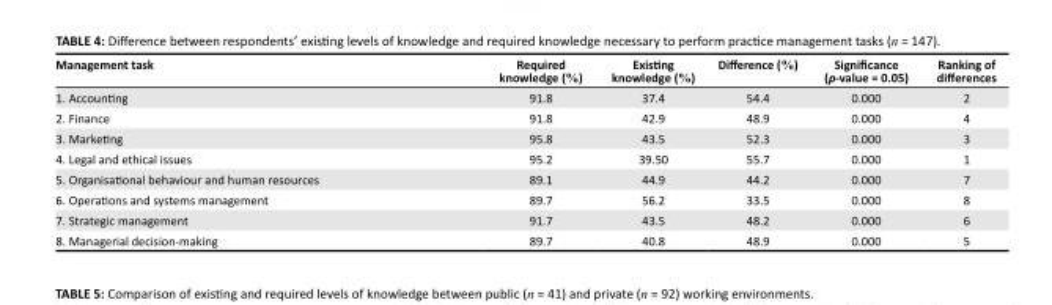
<table><thead><tr><td>Management task</td><td>Required knowledge (%)</td><td>Existing knowledge (%)</td><td>Difference (%)</td><td>Significance (p-value = 0.05)</td><td>Ranking of differences</td></tr></thead><tbody><tr><td>1. Accounting</td><td>91.8</td><td>37.4</td><td>54.4</td><td>0.000</td><td>2</td></tr><tr><td>2. Finance</td><td>91.8</td><td>42.9</td><td>48.9</td><td>0.000</td><td>4</td></tr><tr><td>3. Marketing</td><td>95.8</td><td>43.5</td><td>52.3</td><td>0.000</td><td>3</td></tr><tr><td>4. Legal and ethical issues</td><td>95.2</td><td>39.50</td><td>55.7</td><td>0.000</td><td>1</td></tr><tr><td>5. Organisational behaviour and human resources</td><td>89.1</td><td>44.9</td><td>44.2</td><td>0.000</td><td>7</td></tr><tr><td>6. Operations and systems management</td><td>89.7</td><td>56.2</td><td>33.5</td><td>0.000</td><td>8</td></tr><tr><td>7. Strategic management</td><td>91.7</td><td>43.5</td><td>48.2</td><td>0.000</td><td>6</td></tr><tr><td>8. Managerial decision-making</td><td>89.7</td><td>40.8</td><td>48.9</td><td>0.000</td><td>5</td></tr></tbody></table>